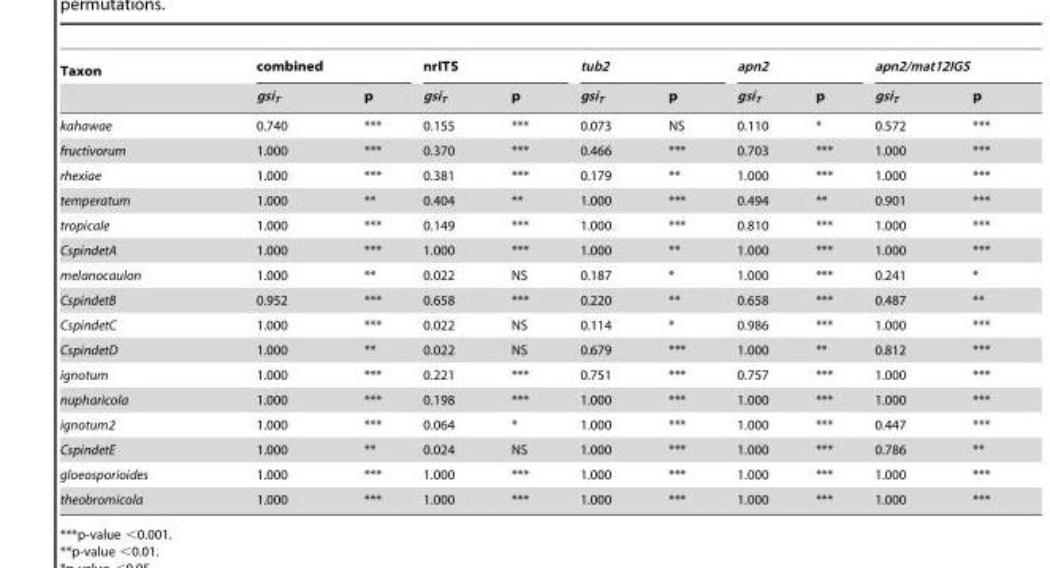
<table><thead><tr><td rowspan="2">Taxon</td><td colspan="2">combined</td><td colspan="2">nrITS</td><td colspan="2">tub2</td><td colspan="2">apn2</td><td colspan="2">apn2/mat12IGS</td></tr><tr><td>gsi<sub>T</sub></td><td>p</td><td>gsi<sub>T</sub></td><td>p</td><td>gsi<sub>T</sub></td><td>p</td><td>gsi<sub>T</sub></td><td>p</td><td>gsi<sub>T</sub></td><td>p</td></tr></thead><tbody><tr><td>kahawae</td><td>0.740</td><td>***</td><td>0.155</td><td>***</td><td>0.073</td><td>NS</td><td>0.110</td><td>*</td><td>0.572</td><td>***</td></tr><tr><td>fructivorum</td><td>1.000</td><td>***</td><td>0.370</td><td>***</td><td>0.466</td><td>***</td><td>0.703</td><td>***</td><td>1.000</td><td>***</td></tr><tr><td>rhexiae</td><td>1.000</td><td>***</td><td>0.381</td><td>***</td><td>0.179</td><td>**</td><td>1.000</td><td>***</td><td>1.000</td><td>***</td></tr><tr><td>temperatum</td><td>1.000</td><td>**</td><td>0.404</td><td>**</td><td>1.000</td><td>***</td><td>0.494</td><td>**</td><td>0.901</td><td>***</td></tr><tr><td>tropicale</td><td>1.000</td><td>***</td><td>0.149</td><td>***</td><td>1.000</td><td>***</td><td>0.810</td><td>***</td><td>1.000</td><td>***</td></tr><tr><td>CspindetA</td><td>1.000</td><td>***</td><td>1.000</td><td>***</td><td>1.000</td><td>**</td><td>1.000</td><td>***</td><td>1.000</td><td>***</td></tr><tr><td>melanocaulon</td><td>1.000</td><td>**</td><td>0.022</td><td>NS</td><td>0.187</td><td>*</td><td>1.000</td><td>***</td><td>0.241</td><td>*</td></tr><tr><td>CspindetB</td><td>0.952</td><td>***</td><td>0.658</td><td>***</td><td>0.220</td><td>**</td><td>0.658</td><td>***</td><td>0.487</td><td>**</td></tr><tr><td>CspindetC</td><td>1.000</td><td>***</td><td>0.022</td><td>NS</td><td>0.114</td><td>*</td><td>0.986</td><td>***</td><td>1.000</td><td>***</td></tr><tr><td>CspindetD</td><td>1.000</td><td>**</td><td>0.022</td><td>NS</td><td>0.679</td><td>***</td><td>1.000</td><td>**</td><td>0.812</td><td>***</td></tr><tr><td>ignotum</td><td>1.000</td><td>***</td><td>0.221</td><td>***</td><td>0.751</td><td>***</td><td>0.757</td><td>***</td><td>1.000</td><td>***</td></tr><tr><td>nupharicola</td><td>1.000</td><td>***</td><td>0.198</td><td>***</td><td>1.000</td><td>***</td><td>1.000</td><td>***</td><td>1.000</td><td>***</td></tr><tr><td>ignotum2</td><td>1.000</td><td>***</td><td>0.064</td><td>*</td><td>1.000</td><td>***</td><td>1.000</td><td>***</td><td>0.447</td><td>***</td></tr><tr><td>CspindetE</td><td>1.000</td><td>**</td><td>0.024</td><td>NS</td><td>1.000</td><td>***</td><td>1.000</td><td>***</td><td>0.786</td><td>**</td></tr><tr><td>gloeosporioides</td><td>1.000</td><td>***</td><td>1.000</td><td>***</td><td>1.000</td><td>***</td><td>1.000</td><td>***</td><td>1.000</td><td>***</td></tr><tr><td>theobromicola</td><td>1.000</td><td>***</td><td>1.000</td><td>***</td><td>1.000</td><td>***</td><td>1.000</td><td>***</td><td>1.000</td><td>***</td></tr></tbody></table>